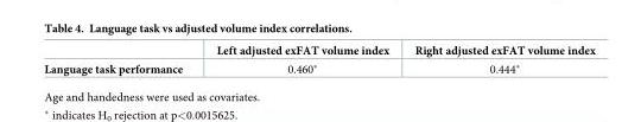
<table><thead><tr><td></td><td>Left adjusted exFAT volume index</td><td>Right adjusted exFAT volume index</td></tr></thead><tbody><tr><td>Language task performance</td><td>0.460*</td><td>0.444*</td></tr></tbody></table>